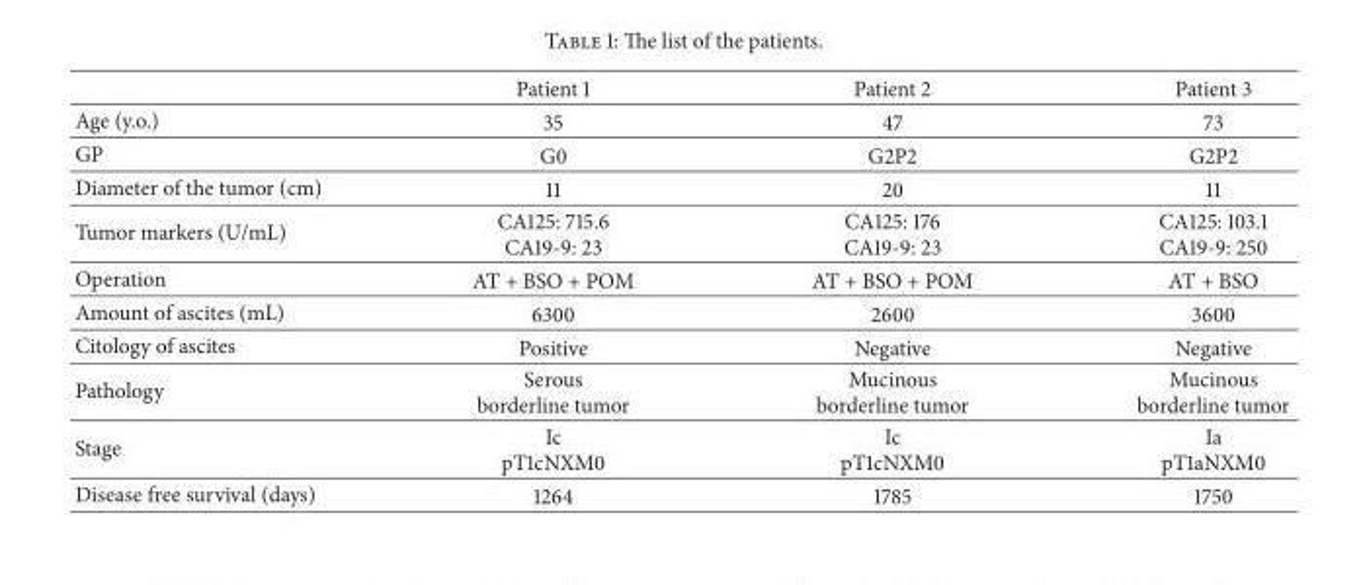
<table><thead><tr><td></td><td>Patient 1</td><td>Patient 2</td><td>Patient 3</td></tr></thead><tbody><tr><td>Age (y.o.)</td><td>35</td><td>47</td><td>73</td></tr><tr><td>GP</td><td>G0</td><td>G2P2</td><td>G2P2</td></tr><tr><td>Diameter of the tumor (cm)</td><td>11</td><td>20</td><td>11</td></tr><tr><td>Tumor markers (U/mL)</td><td>CA125: 715.6 CA19-9: 23</td><td>CA125: 176 CA19-9: 23</td><td>CA125: 103.1 CA19-9: 250</td></tr><tr><td>Operation</td><td>AT + BSO + POM</td><td>AT + BSO + POM</td><td>AT + BSO</td></tr><tr><td>Amount of ascites (mL)</td><td>6300</td><td>2600</td><td>3600</td></tr><tr><td>Citology of ascites</td><td>Positive</td><td>Negative</td><td>Negative</td></tr><tr><td>Pathology</td><td>Serous borderline tumor</td><td>Mucinous borderline tumor</td><td>Mucinous borderline tumor</td></tr><tr><td>Stage</td><td>Ic pT1cNXM0</td><td>Ic pT1cNXM0</td><td>Ia pT1aNXM0</td></tr><tr><td>Disease free survival (days)</td><td>1264</td><td>1785</td><td>1750</td></tr></tbody></table>